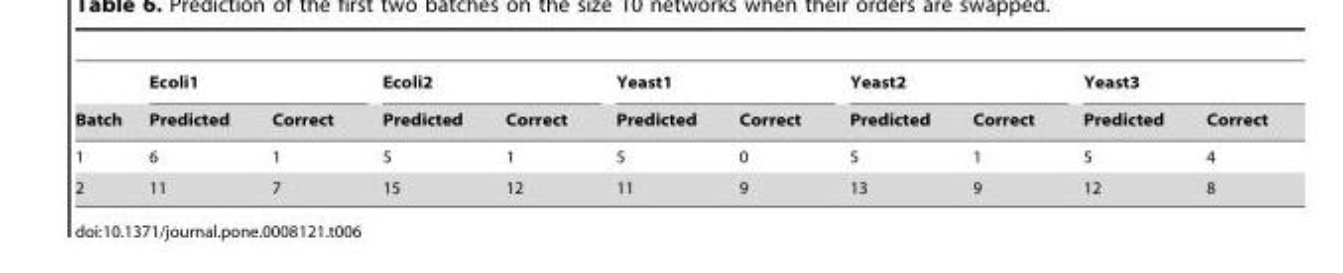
<table><thead><tr><td rowspan="2">Batch</td><td colspan="2">Ecoli1</td><td colspan="2">Ecoli2</td><td colspan="2">Yeast1</td><td colspan="2">Yeast2</td><td colspan="2">Yeast3</td></tr><tr><td>Predicted</td><td>Correct</td><td>Predicted</td><td>Correct</td><td>Predicted</td><td>Correct</td><td>Predicted</td><td>Correct</td><td>Predicted</td><td>Correct</td></tr></thead><tbody><tr><td>1</td><td>6</td><td>1</td><td>5</td><td>1</td><td>5</td><td>0</td><td>5</td><td>1</td><td>5</td><td>4</td></tr><tr><td>2</td><td>11</td><td>7</td><td>15</td><td>12</td><td>11</td><td>9</td><td>13</td><td>9</td><td>12</td><td>8</td></tr></tbody></table>